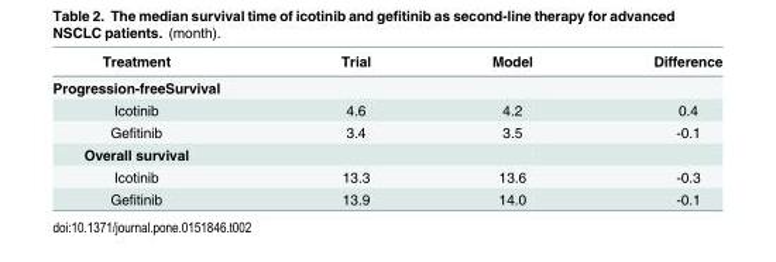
<table><thead><tr><td>Treatment</td><td>Trial</td><td>Model</td><td>Difference</td></tr></thead><tbody><tr><td colspan="4">Progression-freeSurvival</td></tr><tr><td>Icotinib</td><td>4.6</td><td>4.2</td><td>0.4</td></tr><tr><td>Gefitinib</td><td>3.4</td><td>3.5</td><td>-0.1</td></tr><tr><td colspan="4">Overall survival</td></tr><tr><td>Icotinib</td><td>13.3</td><td>13.6</td><td>-0.3</td></tr><tr><td>Gefitinib</td><td>13.9</td><td>14.0</td><td>-0.1</td></tr></tbody></table>